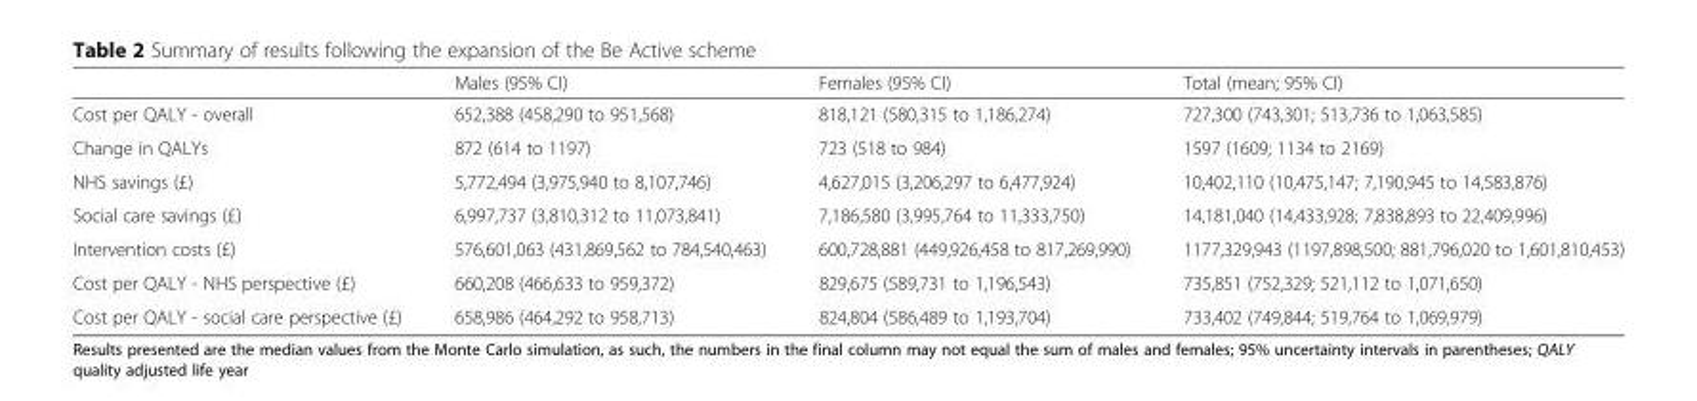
<table><thead><tr><td></td><td>Males (95% CI)</td><td>Females (95% CI)</td><td>Total (mean; 95% CI)</td></tr></thead><tbody><tr><td>Cost per QALY - overall</td><td>652,388 (458,290 to 951,568)</td><td>818,121 (580,315 to 1,186,274)</td><td>727,300 (743,301; 513,736 to 1,063,585)</td></tr><tr><td>Change in QALYs</td><td>872 (614 to 1197)</td><td>723 (518 to 984)</td><td>1597 (1609; 1134 to 2169)</td></tr><tr><td>NHS savings (£)</td><td>5,772,494 (3,975,940 to 8,107,746)</td><td>4,627,015 (3,206,297 to 6,477,924)</td><td>10,402,110 (10,475,147; 7,190,945 to 14,583,876)</td></tr><tr><td>Social care savings (£)</td><td>6,997,737 (3,810,312 to 11,073,841)</td><td>7,186,580 (3,995,764 to 11,333,750)</td><td>14,181,040 (14,433,928; 7,838,893 to 22,409,996)</td></tr><tr><td>Intervention costs (£)</td><td>576,601,063 (431,869,562 to 784,540,463)</td><td>600,728,881 (449,926,458 to 817,269,990)</td><td>1177,329,943 (1197,898,500; 881,796,020 to 1,601,810,453)</td></tr><tr><td>Cost per QALY - NHS perspective (£)</td><td>660,208 (466,633 to 959,372)</td><td>829,675 (589,731 to 1,196,543)</td><td>735,851 (752,329; 521,112 to 1,071,650)</td></tr><tr><td>Cost per QALY - social care perspective (£)</td><td>658,986 (464,292 to 958,713)</td><td>824,804 (586,489 to 1,193,704)</td><td>733,402 (749,844; 519,764 to 1,069,979)</td></tr></tbody></table>